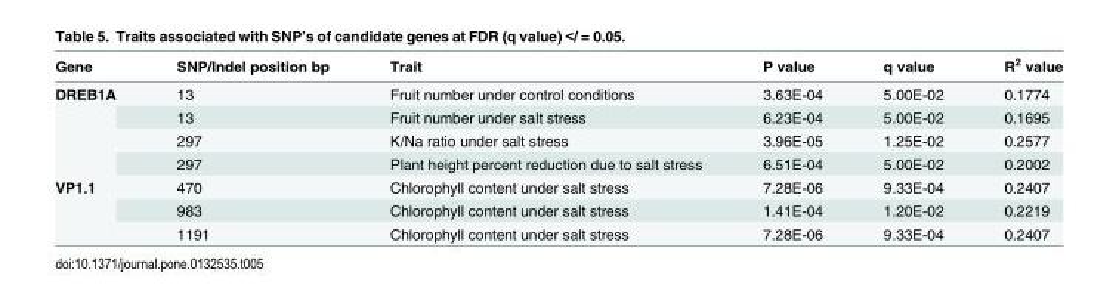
<table><thead><tr><td>Gene</td><td>SNP/Indel position bp</td><td>Trait</td><td>P value</td><td>q value</td><td>R<sup>2</sup> value</td></tr></thead><tbody><tr><td rowspan="4">DREB1A</td><td>13</td><td>Fruit number under control conditions</td><td>3.63E-04</td><td>5.00E-02</td><td>0.1774</td></tr><tr><td>13</td><td>Fruit number under salt stress</td><td>6.23E-04</td><td>5.00E-02</td><td>0.1695</td></tr><tr><td>297</td><td>K/Na ratio under salt stress</td><td>3.96E-05</td><td>1.25E-02</td><td>0.2577</td></tr><tr><td>297</td><td>Plant height percent reduction due to salt stress</td><td>6.51E-04</td><td>5.00E-02</td><td>0.2002</td></tr><tr><td rowspan="3">VP1.1</td><td>470</td><td>Chlorophyll content under salt stress</td><td>7.28E-06</td><td>9.33E-04</td><td>0.2407</td></tr><tr><td>983</td><td>Chlorophyll content under salt stress</td><td>1.41E-04</td><td>1.20E-02</td><td>0.2219</td></tr><tr><td>1191</td><td>Chlorophyll content under salt stress</td><td>7.28E-06</td><td>9.33E-04</td><td>0.2407</td></tr></tbody></table>